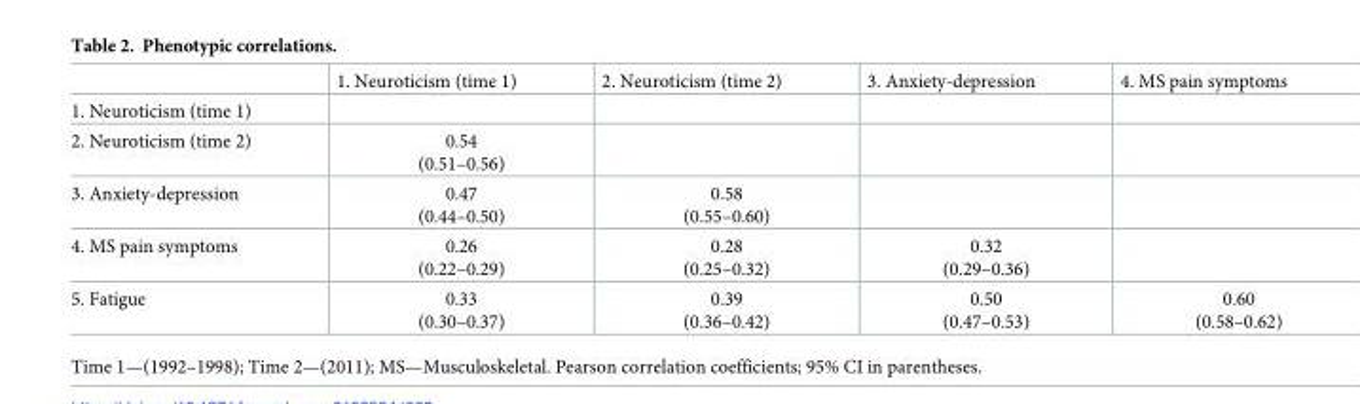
<table><thead><tr><td></td><td>1. Neuroticism (time 1)</td><td>2. Neuroticism (time 2)</td><td>3. Anxiety-depression</td><td>4. MS pain symptoms</td></tr></thead><tbody><tr><td colspan="5">1. Neuroticism (time 1)</td></tr><tr><td>2. Neuroticism (time 2)</td><td>0.54 (0.51–0.56)</td><td></td><td></td><td></td></tr><tr><td>3. Anxiety-depression</td><td>0.47 (0.44–0.50)</td><td>0.58 (0.55–0.60)</td><td></td><td></td></tr><tr><td>4. MS pain symptoms</td><td>0.26 (0.22–0.29)</td><td>0.28 (0.25–0.32)</td><td>0.32 (0.29–0.36)</td><td></td></tr><tr><td>5. Fatigue</td><td>0.33 (0.30–0.37)</td><td>0.39 (0.36–0.42)</td><td>0.50 (0.47–0.53)</td><td>0.60 (0.58–0.62)</td></tr></tbody></table>